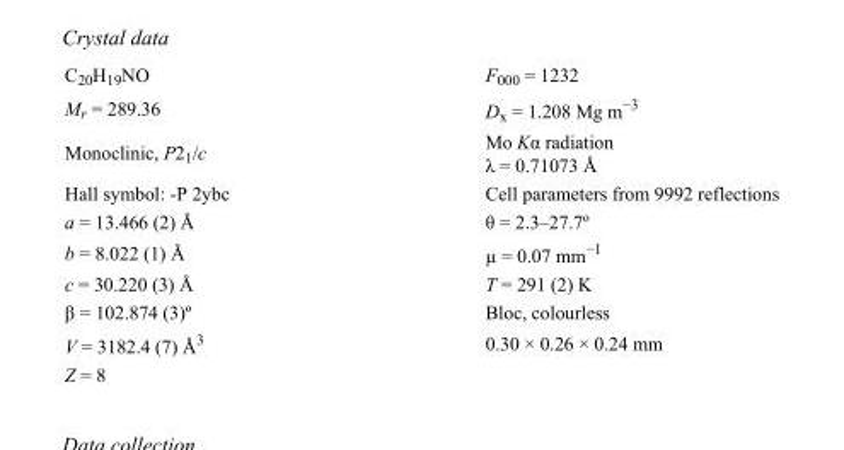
<table><tbody><tr><td>C<sub>20</sub>H<sub>19</sub>NO</td><td>F<sub>000</sub> = 1232</td></tr><tr><td>M<sub>r</sub> = 289.36</td><td>D<sub>x</sub> = 1.208 Mg m<sup>−3</sup></td></tr><tr><td>Monoclinic, P2<sub>1</sub>/c</td><td>Mo Kα radiation λ = 0.71073 Å</td></tr><tr><td>Hall symbol: -P 2ybc</td><td>Cell parameters from 9992 reflections</td></tr><tr><td>a = 13.466 (2) Å</td><td>θ = 2.3–27.7º</td></tr><tr><td>b = 8.022 (1) Å</td><td>µ = 0.07 mm<sup>−1</sup></td></tr><tr><td>c = 30.220 (3) Å</td><td>T = 291 (2) K</td></tr><tr><td>β = 102.874 (3)º</td><td>Bloc, colourless</td></tr><tr><td>V = 3182.4 (7) Å<sup>3</sup></td><td>0.30 × 0.26 × 0.24 mm</td></tr><tr><td>Z = 8</td><td></td></tr></tbody></table>